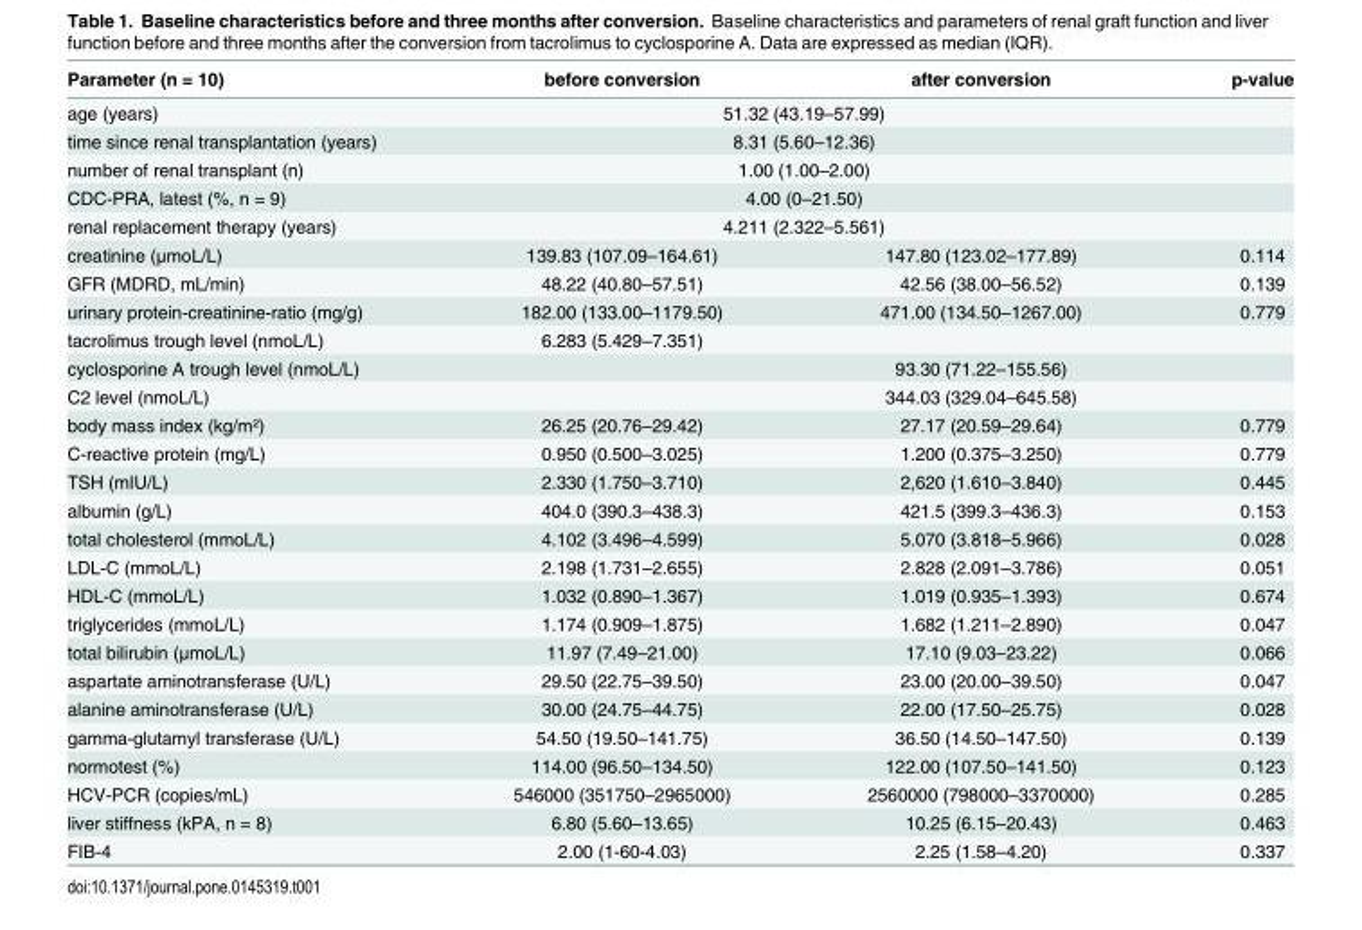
<table><thead><tr><td>Parameter (n = 10)</td><td>before conversion</td><td>after conversion</td><td>p-value</td></tr></thead><tbody><tr><td>age (years)</td><td colspan="2">51.32 (43.19–57.99)</td><td></td></tr><tr><td>time since renal transplantation (years)</td><td colspan="2">8.31 (5.60–12.36)</td><td></td></tr><tr><td>number of renal transplant (n)</td><td colspan="2">1.00 (1.00–2.00)</td><td></td></tr><tr><td>CDC-PRA, latest (%, n = 9)</td><td colspan="2">4.00 (0–21.50)</td><td></td></tr><tr><td>renal replacement therapy (years)</td><td colspan="2">4.211 (2.322–5.561)</td><td></td></tr><tr><td>creatinine (μmoL/L)</td><td>139.83 (107.09–164.61)</td><td>147.80 (123.02–177.89)</td><td>0.114</td></tr><tr><td>GFR (MDRD, mL/min)</td><td>48.22 (40.80–57.51)</td><td>42.56 (38.00–56.52)</td><td>0.139</td></tr><tr><td>urinary protein-creatinine-ratio (mg/g)</td><td>182.00 (133.00–1179.50)</td><td>471.00 (134.50–1267.00)</td><td>0.779</td></tr><tr><td>tacrolimus trough level (nmoL/L)</td><td>6.283 (5.429–7.351)</td><td></td><td></td></tr><tr><td>cyclosporine A trough level (nmoL/L)</td><td></td><td>93.30 (71.22–155.56)</td><td></td></tr><tr><td>C2 level (nmoL/L)</td><td></td><td>344.03 (329.04–645.58)</td><td></td></tr><tr><td>body mass index (kg/m²)</td><td>26.25 (20.76–29.42)</td><td>27.17 (20.59–29.64)</td><td>0.779</td></tr><tr><td>C-reactive protein (mg/L)</td><td>0.950 (0.500–3.025)</td><td>1.200 (0.375–3.250)</td><td>0.779</td></tr><tr><td>TSH (mIU/L)</td><td>2.330 (1.750–3.710)</td><td>2,620 (1.610–3.840)</td><td>0.445</td></tr><tr><td>albumin (g/L)</td><td>404.0 (390.3–438.3)</td><td>421.5 (399.3–436.3)</td><td>0.153</td></tr><tr><td>total cholesterol (mmoL/L)</td><td>4.102 (3.496–4.599)</td><td>5.070 (3.818–5.966)</td><td>0.028</td></tr><tr><td>LDL-C (mmoL/L)</td><td>2.198 (1.731–2.655)</td><td>2.828 (2.091–3.786)</td><td>0.051</td></tr><tr><td>HDL-C (mmoL/L)</td><td>1.032 (0.890–1.367)</td><td>1.019 (0.935–1.393)</td><td>0.674</td></tr><tr><td>triglycerides (mmoL/L)</td><td>1.174 (0.909–1.875)</td><td>1.682 (1.211–2.890)</td><td>0.047</td></tr><tr><td>total bilirubin (μmoL/L)</td><td>11.97 (7.49–21.00)</td><td>17.10 (9.03–23.22)</td><td>0.066</td></tr><tr><td>aspartate aminotransferase (U/L)</td><td>29.50 (22.75–39.50)</td><td>23.00 (20.00–39.50)</td><td>0.047</td></tr><tr><td>alanine aminotransferase (U/L)</td><td>30.00 (24.75–44.75)</td><td>22.00 (17.50–25.75)</td><td>0.028</td></tr><tr><td>gamma-glutamyl transferase (U/L)</td><td>54.50 (19.50–141.75)</td><td>36.50 (14.50–147.50)</td><td>0.139</td></tr><tr><td>normotest (%)</td><td>114.00 (96.50–134.50)</td><td>122.00 (107.50–141.50)</td><td>0.123</td></tr><tr><td>HCV-PCR (copies/mL)</td><td>546000 (351750–2965000)</td><td>2560000 (798000–3370000)</td><td>0.285</td></tr><tr><td>liver stiffness (kPA, n = 8)</td><td>6.80 (5.60–13.65)</td><td>10.25 (6.15–20.43)</td><td>0.463</td></tr><tr><td>FIB-4</td><td>2.00 (1-60-4.03)</td><td>2.25 (1.58–4.20)</td><td>0.337</td></tr></tbody></table>